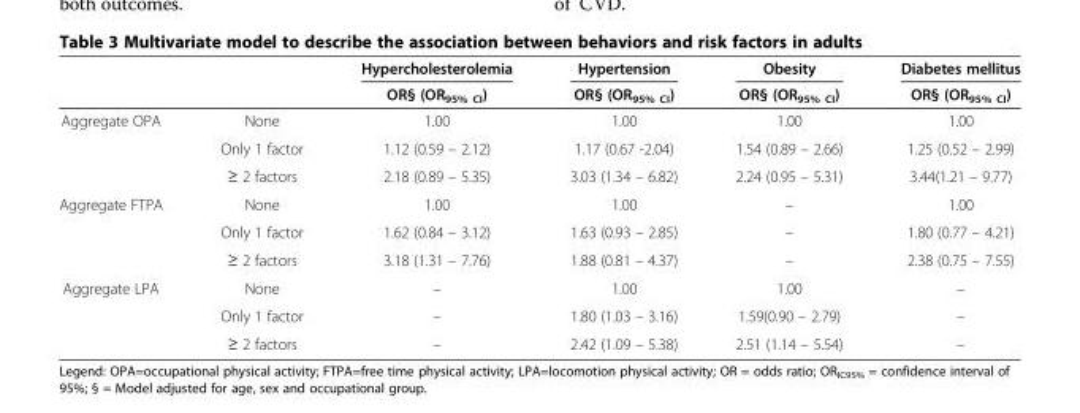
<table><thead><tr><td rowspan="2"></td><td rowspan="2"></td><td rowspan="2">Hypercholesterolemia OR§ (OR<sub>95% CI</sub>)</td><td rowspan="2">Hypertension OR§ (OR<sub>95% CI</sub>)</td><td rowspan="2">Obesity OR§ (OR<sub>95% CI</sub>)</td><td rowspan="2">Diabetes mellitus OR§ (OR<sub>95% CI</sub>)</td></tr><tr></tr></thead><tbody><tr><td rowspan="3">Aggregate OPA</td><td>None</td><td>1.00</td><td>1.00</td><td>1.00</td><td>1.00</td></tr><tr><td>Only 1 factor</td><td>1.12 (0.59 – 2.12)</td><td>1.17 (0.67 -2.04)</td><td>1.54 (0.89 – 2.66)</td><td>1.25 (0.52 – 2.99)</td></tr><tr><td>≥ 2 factors</td><td>2.18 (0.89 – 5.35)</td><td>3.03 (1.34 – 6.82)</td><td>2.24 (0.95 – 5.31)</td><td>3.44(1.21 – 9.77)</td></tr><tr><td rowspan="3">Aggregate FTPA</td><td>None</td><td>1.00</td><td>1.00</td><td>–</td><td>1.00</td></tr><tr><td>Only 1 factor</td><td>1.62 (0.84 – 3.12)</td><td>1.63 (0.93 – 2.85)</td><td>–</td><td>1.80 (0.77 – 4.21)</td></tr><tr><td>≥ 2 factors</td><td>3.18 (1.31 – 7.76)</td><td>1.88 (0.81 – 4.37)</td><td>–</td><td>2.38 (0.75 – 7.55)</td></tr><tr><td rowspan="3">Aggregate LPA</td><td>None</td><td>–</td><td>1.00</td><td>1.00</td><td>–</td></tr><tr><td>Only 1 factor</td><td>–</td><td>1.80 (1.03 – 3.16)</td><td>1.59(0.90 – 2.79)</td><td>–</td></tr><tr><td>≥ 2 factors</td><td>–</td><td>2.42 (1.09 – 5.38)</td><td>2.51 (1.14 – 5.54)</td><td>–</td></tr></tbody></table>